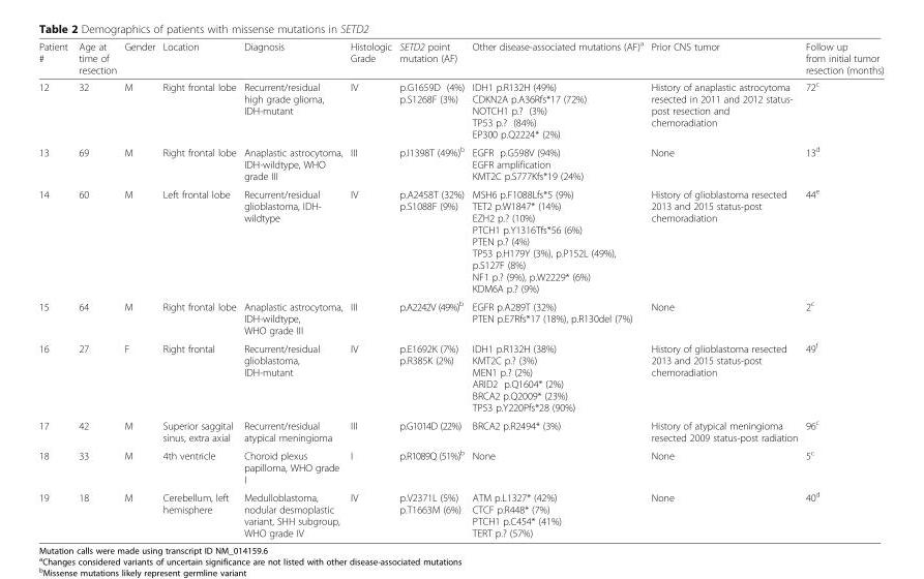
<table><thead><tr><td>Patient #</td><td>Age at time of resection</td><td>Gender</td><td>Location</td><td>Diagnosis</td><td>Histologic Grade</td><td>SETD2 point mutation (AF)</td><td>Other disease-associated mutations (AF)<sup>a</sup></td><td>Prior CNS tumor</td><td>Follow up from initial tumor resection (months)</td></tr></thead><tbody><tr><td>12</td><td>32</td><td>M</td><td>Right frontal lobe</td><td>Recurrent/residual high grade glioma, IDH-mutant</td><td>IV</td><td>p.G1659D (4%) p.S1268F (3%)</td><td>IDH1 p.R132H (49%) CDKN2A p.A36Rfs*17 (72%) NOTCH1 p.? (3%) TP53 p.? (84%) EP300 p.Q2224* (2%)</td><td>History of anaplastic astrocytoma resected in 2011 and 2012 status- post resection and chemoradiation</td><td>72<sup>c</sup></td></tr><tr><td>13</td><td>69</td><td>M</td><td>Right frontal lobe</td><td>Anaplastic astrocytoma, IDH-wildtype, WHO grade III</td><td>III</td><td>p.I1398T (49%)<sup>b</sup></td><td>EGFR p.G598V (94%) EGFR amplification KMT2C p.S777Kfs*19 (24%)</td><td>None</td><td>13<sup>d</sup></td></tr><tr><td>14</td><td>60</td><td>M</td><td>Left frontal lobe</td><td>Recurrent/residual glioblastoma, IDH- wildtype</td><td>IV</td><td>p.A2458T (32%) p.S1088F (9%)</td><td>MSH6 p.F1088Lfs*5 (9%) TET2 p.W1847* (14%) EZH2 p.? (10%) PTCH1 p.Y1316Tfs*56 (6%) PTEN p.? (4%) TP53 p.H179Y (3%), p.P152L (49%), p.S127F (8%) NF1 p.? (9%), p.W2229* (6%) KDM6A p.? (9%)</td><td>History of glioblastoma resected 2013 and 2015 status-post chemoradiation</td><td>44<sup>e</sup></td></tr><tr><td>15</td><td>64</td><td>M</td><td>Right frontal lobe</td><td>Anaplastic astrocytoma, IDH-wildtype, WHO grade III</td><td>III</td><td>p.A2242V (49%)<sup>b</sup></td><td>EGFR p.A289T (32%) PTEN p.E7Rfs*17 (18%), p.R130del (7%)</td><td>None</td><td>2<sup>c</sup></td></tr><tr><td>16</td><td>27</td><td>F</td><td>Right frontal</td><td>Recurrent/residual glioblastoma, IDH-mutant</td><td>IV</td><td>p.E1692K (7%) p.R385K (2%)</td><td>IDH1 p.R132H (38%) KMT2C p.? (3%) MEN1 p.? (2%) ARID2 p.Q1604* (2%) BRCA2 p.Q2009* (23%) TP53 p.Y220Pfs*28 (90%)</td><td>History of glioblastoma resected 2013 and 2015 status-post chemoradiation</td><td>49<sup>f</sup></td></tr><tr><td>17</td><td>42</td><td>M</td><td>Superior saggital sinus, extra axial</td><td>Recurrent/residual atypical meningioma</td><td>III</td><td>p.G1014D (22%)</td><td>BRCA2 p.R2494* (3%)</td><td>History of atypical meningioma resected 2009 status-post radiation</td><td>96<sup>c</sup></td></tr><tr><td>18</td><td>33</td><td>M</td><td>4th ventricle</td><td>Choroid plexus papilloma, WHO grade I</td><td>I</td><td>p.R1089Q (51%)<sup>b</sup></td><td>None</td><td>None</td><td>5<sup>c</sup></td></tr><tr><td>19</td><td>18</td><td>M</td><td>Cerebellum, left hemisphere</td><td>Medulloblastoma, nodular desmoplastic variant, SHH subgroup, WHO grade IV</td><td>IV</td><td>p.V2371L (5%) p.T1663M (6%)</td><td>ATM p.L1327* (42%) CTCF p.R448* (7%) PTCH1 p.C454* (41%) TERT p.? (57%)</td><td>None</td><td>40<sup>d</sup></td></tr></tbody></table>